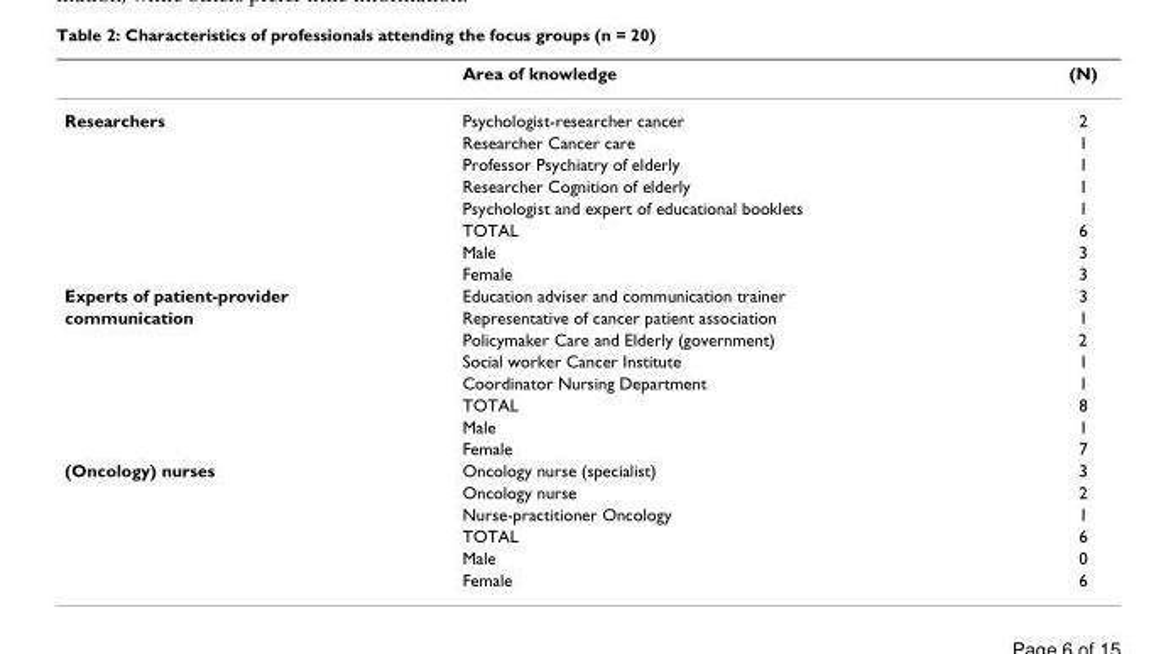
<table><thead><tr><td></td><td>Area of knowledge</td><td>(N)</td></tr></thead><tbody><tr><td rowspan="8">Researchers</td><td>Psychologist-researcher cancer</td><td>2</td></tr><tr><td>Researcher Cancer care</td><td>1</td></tr><tr><td>Professor Psychiatry of elderly</td><td>1</td></tr><tr><td>Researcher Cognition of elderly</td><td>1</td></tr><tr><td>Psychologist and expert of educational booklets</td><td>1</td></tr><tr><td>TOTAL</td><td>6</td></tr><tr><td>Male</td><td>3</td></tr><tr><td>Female</td><td>3</td></tr><tr><td>Experts of patient-provider</td><td>Education adviser and communication trainer</td><td>3</td></tr><tr><td rowspan="7">communication</td><td>Representative of cancer patient association</td><td>1</td></tr><tr><td>Policymaker Care and Elderly (government)</td><td>2</td></tr><tr><td>Social worker Cancer Institute</td><td>1</td></tr><tr><td>Coordinator Nursing Department</td><td>1</td></tr><tr><td>TOTAL</td><td>8</td></tr><tr><td>Male</td><td>1</td></tr><tr><td>Female</td><td>7</td></tr><tr><td rowspan="6">(Oncology) nurses</td><td>Oncology nurse (specialist)</td><td>3</td></tr><tr><td>Oncology nurse</td><td>2</td></tr><tr><td>Nurse-practitioner Oncology</td><td>1</td></tr><tr><td>TOTAL</td><td>6</td></tr><tr><td>Male</td><td>0</td></tr><tr><td>Female</td><td>6</td></tr></tbody></table>